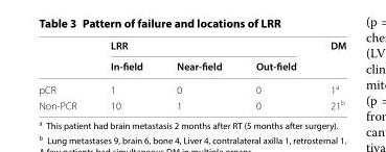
<table><thead><tr><td rowspan="2"></td><td colspan="3">LRR</td><td rowspan="2">DM</td></tr><tr><td>In-field</td><td>Near-field</td><td>Out-field</td></tr></thead><tbody><tr><td>pCR</td><td>1</td><td>0</td><td>0</td><td>1<sup>a</sup></td></tr><tr><td>Non‑PCR</td><td>10</td><td>1</td><td>0</td><td>21<sup>b</sup></td></tr></tbody></table>